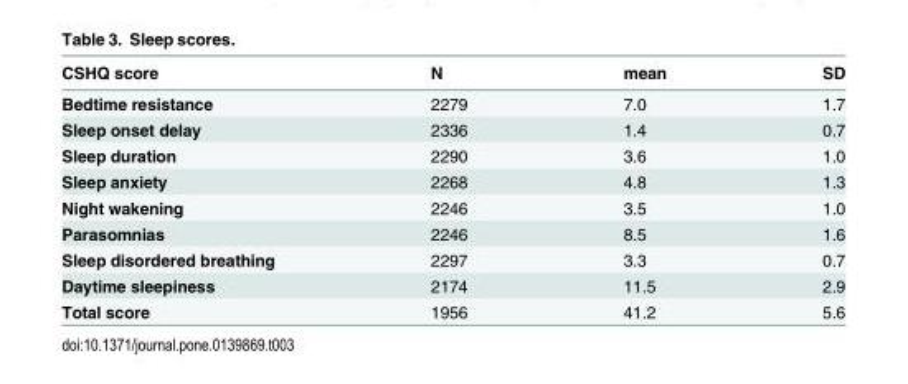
<table><thead><tr><td>CSHQ score</td><td>N</td><td>mean</td><td>SD</td></tr></thead><tbody><tr><td>Bedtime resistance</td><td>2279</td><td>7.0</td><td>1.7</td></tr><tr><td>Sleep onset delay</td><td>2336</td><td>1.4</td><td>0.7</td></tr><tr><td>Sleep duration</td><td>2290</td><td>3.6</td><td>1.0</td></tr><tr><td>Sleep anxiety</td><td>2268</td><td>4.8</td><td>1.3</td></tr><tr><td>Night wakening</td><td>2246</td><td>3.5</td><td>1.0</td></tr><tr><td>Parasomnias</td><td>2246</td><td>8.5</td><td>1.6</td></tr><tr><td>Sleep disordered breathing</td><td>2297</td><td>3.3</td><td>0.7</td></tr><tr><td>Daytime sleepiness</td><td>2174</td><td>11.5</td><td>2.9</td></tr><tr><td>Total score</td><td>1956</td><td>41.2</td><td>5.6</td></tr></tbody></table>